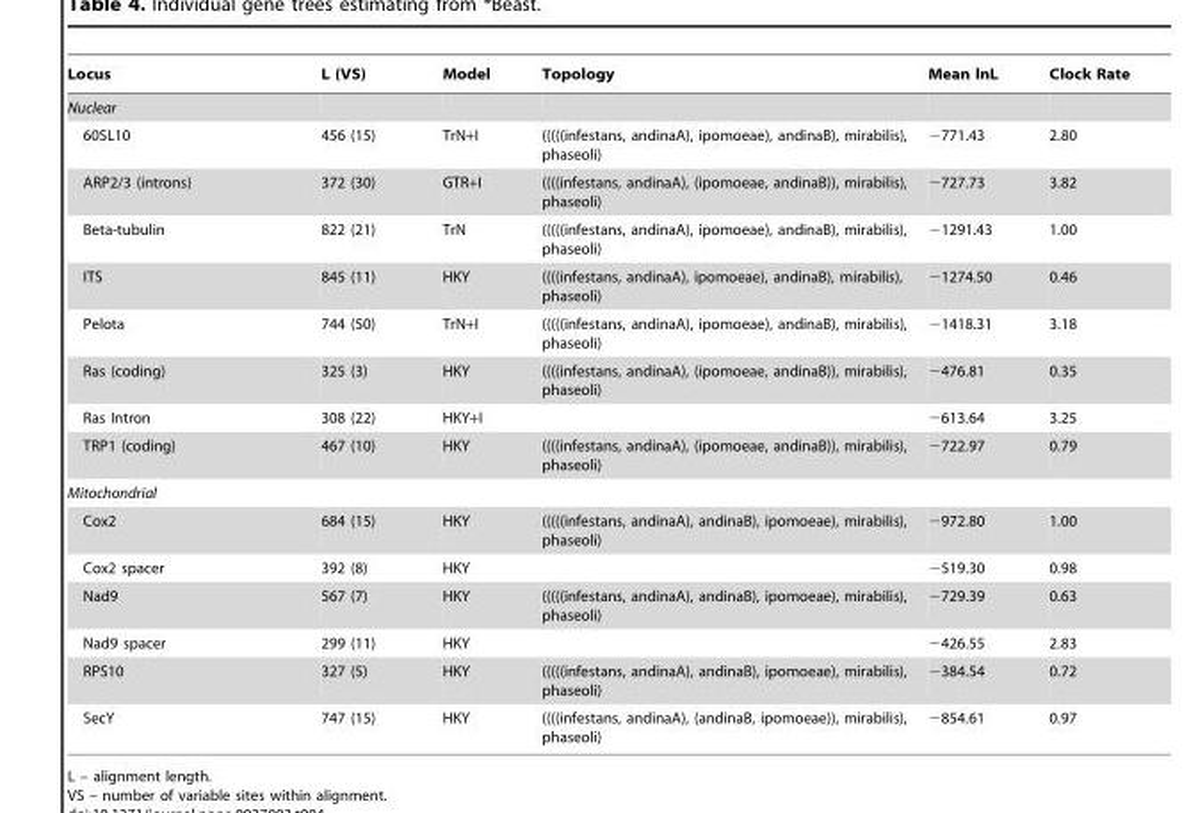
<table><thead><tr><td>Locus</td><td>L (VS)</td><td>Model</td><td>Topology</td><td>Mean lnL</td><td>Clock Rate</td></tr></thead><tbody><tr><td colspan="6">Nuclear</td></tr><tr><td>60SL10</td><td>456 (15)</td><td>TrN+I</td><td>(((((infestans, andinaA), ipomoeae), andinaB), mirabilis), phaseoli)</td><td>−771.43</td><td>2.80</td></tr><tr><td>ARP2/3 (introns)</td><td>372 (30)</td><td>GTR+I</td><td>((((infestans, andinaA), (ipomoeae, andinaB)), mirabilis), phaseoli)</td><td>−727.73</td><td>3.82</td></tr><tr><td>Beta-tubulin</td><td>822 (21)</td><td>TrN</td><td>(((((infestans, andinaA), ipomoeae), andinaB), mirabilis), phaseoli)</td><td>−1291.43</td><td>1.00</td></tr><tr><td>ITS</td><td>845 (11)</td><td>HKY</td><td>((((infestans, andinaA), ipomoeae), andinaB), mirabilis), phaseoli)</td><td>−1274.50</td><td>0.46</td></tr><tr><td>Pelota</td><td>744 (50)</td><td>TrN+I</td><td>(((((infestans, andinaA), ipomoeae), andinaB), mirabilis), phaseoli)</td><td>−1418.31</td><td>3.18</td></tr><tr><td>Ras (coding)</td><td>325 (3)</td><td>HKY</td><td>((((infestans, andinaA), (ipomoeae, andinaB)), mirabilis), phaseoli)</td><td>−476.81</td><td>0.35</td></tr><tr><td>Ras Intron</td><td>308 (22)</td><td>HKY+I</td><td></td><td>−613.64</td><td>3.25</td></tr><tr><td>TRP1 (coding)</td><td>467 (10)</td><td>HKY</td><td>((((infestans, andinaA), (ipomoeae, andinaB)), mirabilis), phaseoli)</td><td>−722.97</td><td>0.79</td></tr><tr><td colspan="6">Mitochondrial</td></tr><tr><td>Cox2</td><td>684 (15)</td><td>HKY</td><td>(((((infestans, andinaA), andinaB), ipomoeae), mirabilis), phaseoli)</td><td>−972.80</td><td>1.00</td></tr><tr><td>Cox2 spacer</td><td>392 (8)</td><td>HKY</td><td></td><td>−519.30</td><td>0.98</td></tr><tr><td>Nad9</td><td>567 (7)</td><td>HKY</td><td>(((((infestans, andinaA), andinaB), ipomoeae), mirabilis), phaseoli)</td><td>−729.39</td><td>0.63</td></tr><tr><td>Nad9 spacer</td><td>299 (11)</td><td>HKY</td><td></td><td>−426.55</td><td>2.83</td></tr><tr><td>RPS10</td><td>327 (5)</td><td>HKY</td><td>(((((infestans, andinaA), andinaB), ipomoeae), mirabilis), phaseoli)</td><td>−384.54</td><td>0.72</td></tr><tr><td>SecY</td><td>747 (15)</td><td>HKY</td><td>((((infestans, andinaA), (andinaB, ipomoeae)), mirabilis), phaseoli)</td><td>−854.61</td><td>0.97</td></tr></tbody></table>